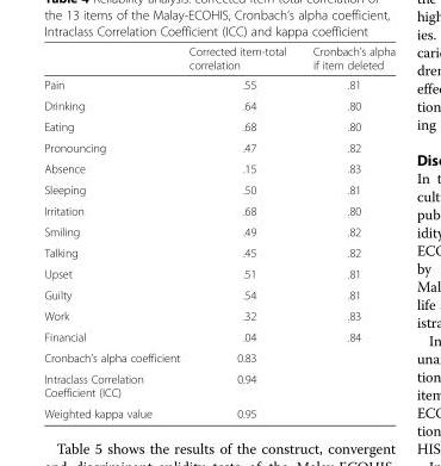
<table><thead><tr><td></td><td>Corrected item-total correlation</td><td>Cronbach’s alpha if item deleted</td></tr></thead><tbody><tr><td>Pain</td><td>.55</td><td>.81</td></tr><tr><td>Drinking</td><td>.64</td><td>.80</td></tr><tr><td>Eating</td><td>.68</td><td>.80</td></tr><tr><td>Pronouncing</td><td>.47</td><td>.82</td></tr><tr><td>Absence</td><td>.15</td><td>.83</td></tr><tr><td>Sleeping</td><td>.50</td><td>.81</td></tr><tr><td>Irritation</td><td>.68</td><td>.80</td></tr><tr><td>Smiling</td><td>.49</td><td>.82</td></tr><tr><td>Talking</td><td>.45</td><td>.82</td></tr><tr><td>Upset</td><td>.51</td><td>.81</td></tr><tr><td>Guilty</td><td>.54</td><td>.81</td></tr><tr><td>Work</td><td>.32</td><td>.83</td></tr><tr><td>Financial</td><td>.04</td><td>.84</td></tr><tr><td>Cronbach’s alpha coefficient</td><td>0.83</td><td></td></tr><tr><td>Intraclass Correlation Coefficient (ICC)</td><td>0.94</td><td></td></tr><tr><td>Weighted kappa value</td><td>0.95</td><td></td></tr></tbody></table>